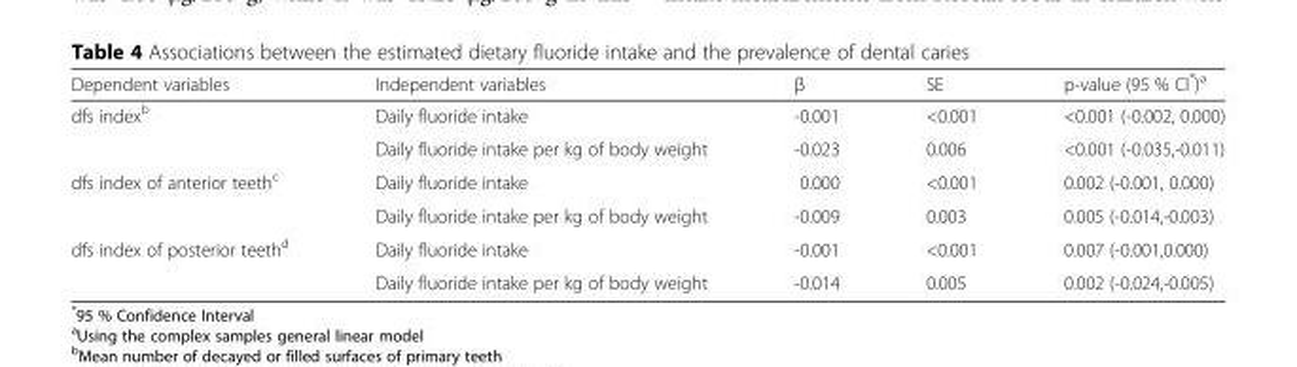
<table><thead><tr><td>Dependent variables</td><td>Independent variables</td><td>β</td><td>SE</td><td>p-value (95 % CI*)<sup>a</sup></td></tr></thead><tbody><tr><td rowspan="2">dfs index<sup>b</sup></td><td>Daily fluoride intake</td><td>-0.001</td><td>&lt;0.001</td><td>&lt;0.001 (-0.002, 0.000)</td></tr><tr><td>Daily fluoride intake per kg of body weight</td><td>-0.023</td><td>0.006</td><td>&lt;0.001 (-0.035,-0.011)</td></tr><tr><td rowspan="2">dfs index of anterior teeth<sup>c</sup></td><td>Daily fluoride intake</td><td>0.000</td><td>&lt;0.001</td><td>0.002 (-0.001, 0.000)</td></tr><tr><td>Daily fluoride intake per kg of body weight</td><td>-0.009</td><td>0.003</td><td>0.005 (-0.014,-0.003)</td></tr><tr><td rowspan="2">dfs index of posterior teeth<sup>d</sup></td><td>Daily fluoride intake</td><td>-0.001</td><td>&lt;0.001</td><td>0.007 (-0.001,0.000)</td></tr><tr><td>Daily fluoride intake per kg of body weight</td><td>-0.014</td><td>0.005</td><td>0.002 (-0.024,-0.005)</td></tr></tbody></table>